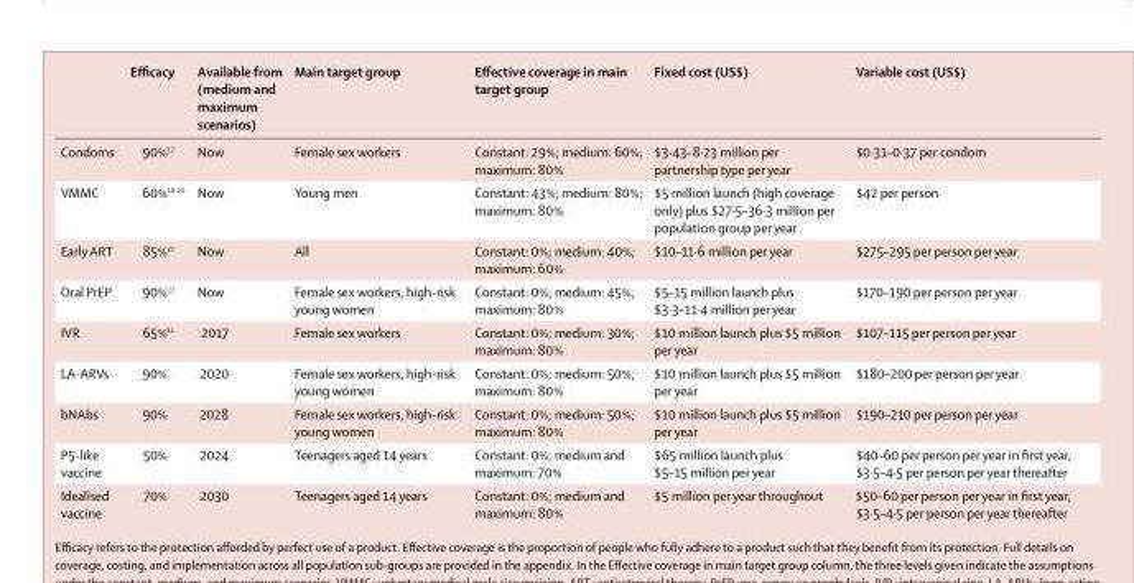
<table><thead><tr><td></td><td>Effi cacy</td><td>Available from (medium and maximum scenarios)</td><td>Main target group</td><td>Eff ective coverage in main target group</td><td>Fixed cost (US$)</td><td>Variable cost (US$)</td></tr></thead><tbody><tr><td>Condoms</td><td>90%<sup>17</sup></td><td>Now</td><td>Female sex workers</td><td>Constant: 29%; medium: 60%; maximum: 80%</td><td>$3·43–8·23 million per partnership type per year</td><td>$0·31–0·37 per condom</td></tr><tr><td>VMMC</td><td>60%18–20</td><td>Now</td><td>Young men</td><td>Constant: 43%; medium: 80%; maximum: 80%</td><td>$5 million launch (high coverage only) plus $27·5–36·3 million per population group per year</td><td>$42 per person</td></tr><tr><td>Early ART</td><td>85%<sup>21</sup></td><td>Now</td><td>All</td><td>Constant: 0%; medium: 40%; maximum: 60%</td><td>$10–11·6 million per year</td><td>$275–295 per person per year</td></tr><tr><td>Oral PrEP</td><td>90%<sup>22</sup></td><td>Now</td><td>Female sex workers, high-risk young women</td><td>Constant: 0%; medium: 45%; maximum: 80%</td><td>$5–15 million launch plus $3·3–11·4 million per year</td><td>$170–190 per person per year</td></tr><tr><td>IVR</td><td>65%<sup>11</sup></td><td>2017</td><td>Female sex workers</td><td>Constant: 0%; medium: 30%; maximum: 80%</td><td>$10 million launch plus $5 million per year</td><td>$107–115 per person per year</td></tr><tr><td>LA-ARVs</td><td>90%</td><td>2020</td><td>Female sex workers, high-risk young women</td><td>Constant: 0%; medium: 50%; maximum: 80%</td><td>$10 million launch plus $5 million per year</td><td>$180–200 per person per year</td></tr><tr><td>bNAbs</td><td>90%</td><td>2028</td><td>Female sex workers, high-risk young women</td><td>Constant: 0%; medium: 50%; maximum: 80%</td><td>$10 million launch plus $5 million per year</td><td>$190–210 per person per year</td></tr><tr><td>P5-like vaccine</td><td>50%</td><td>2024</td><td>Teenagers aged 14 years</td><td>Constant: 0%; medium and maximum: 70%</td><td>$65 million launch plus $5–15 million per year</td><td>$40–60 per person per year in fi rst year, $3·5–4·5 per person per year thereafter</td></tr><tr><td>Idealised vaccine</td><td>70%</td><td>2030</td><td>Teenagers aged 14 years</td><td>Constant: 0%; medium and maximum: 80%</td><td>$5 million per year throughout</td><td>$50–60 per person per year in fi rst year, $3·5–4·5 per person per year thereafter</td></tr></tbody></table>